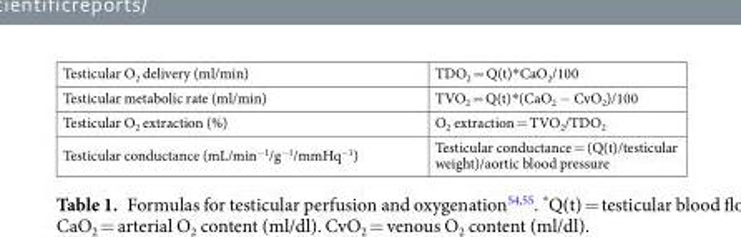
<table><tbody><tr><td>Testicular O<sub>2</sub> delivery (ml/min)</td><td>TDO<sub>2</sub> = Q(t)*CaO<sub>2</sub>/100</td></tr><tr><td>Testicular metabolic rate (ml/min)</td><td>TVO<sub>2</sub> = Q(t)*(CaO<sub>2</sub> − CvO<sub>2</sub>)/100</td></tr><tr><td>Testicular O<sub>2</sub> extraction (%)</td><td>O<sub>2</sub> extraction = TVO<sub>2</sub>/TDO<sub>2</sub></td></tr><tr><td>Testicular conductance (mL/min<sup>−1</sup>/g<sup>−1</sup>/mmHq<sup>−1</sup>)</td><td>Testicular conductance = (Q(t)/testicular weight)/aortic blood pressure</td></tr></tbody></table>